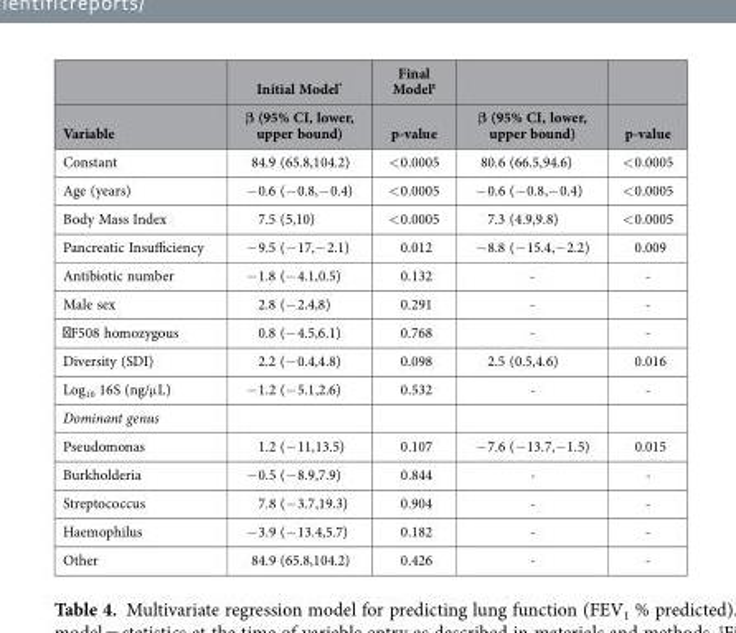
<table><thead><tr><td rowspan="2">Variable</td><td rowspan="2">Initial Model* β (95% CI, lower, upper bound)</td><td rowspan="2">Final Model<sup>t</sup> p-value</td><td rowspan="2">β (95% CI, lower, upper bound)</td><td rowspan="2">p-value</td></tr><tr></tr></thead><tbody><tr><td>Constant</td><td>84.9 (65.8,104.2)</td><td>&lt; 0.0005</td><td>80.6 (66.5,94.6)</td><td>&lt; 0.0005</td></tr><tr><td>Age (years)</td><td>− 0.6 (− 0.8,− 0.4)</td><td>&lt; 0.0005</td><td>− 0.6 (− 0.8,− 0.4)</td><td>&lt; 0.0005</td></tr><tr><td>Body Mass Index</td><td>7.5 (5,10)</td><td>&lt; 0.0005</td><td>7.3 (4.9,9.8)</td><td>&lt; 0.0005</td></tr><tr><td>Pancreatic Insufficiency</td><td>− 9.5 (− 17,− 2.1)</td><td>0.012</td><td>− 8.8 (− 15.4,− 2.2)</td><td>0.009</td></tr><tr><td>Antibiotic number</td><td>− 1.8 (− 4.1,0.5)</td><td>0.132</td><td>-</td><td>-</td></tr><tr><td>Male sex</td><td>2.8 (− 2.4,8)</td><td>0.291</td><td>-</td><td>-</td></tr><tr><td>F508 homozygous</td><td>0.8 (− 4.5,6.1)</td><td>0.768</td><td>-</td><td>-</td></tr><tr><td>Diversity (SDI)</td><td>2.2 (− 0.4,4.8)</td><td>0.098</td><td>2.5 (0.5,4.6)</td><td>0.016</td></tr><tr><td>Log<sub>10</sub> 16S (ng/μ L)</td><td>− 1.2 (− 5.1,2.6)</td><td>0.532</td><td>-</td><td>-</td></tr><tr><td colspan="5">Dominant genus</td></tr><tr><td>Pseudomonas</td><td>1.2 (− 11,13.5)</td><td>0.107</td><td>− 7.6 (− 13.7,− 1.5)</td><td>0.015</td></tr><tr><td>Burkholderia</td><td>− 0.5 (− 8.9,7.9)</td><td>0.844</td><td>-</td><td>-</td></tr><tr><td>Streptococcus</td><td>7.8 (− 3.7,19.3)</td><td>0.904</td><td>-</td><td>-</td></tr><tr><td>Haemophilus</td><td>− 3.9 (− 13.4,5.7)</td><td>0.182</td><td>-</td><td>-</td></tr><tr><td>Other</td><td>84.9 (65.8,104.2)</td><td>0.426</td><td>-</td><td>-</td></tr></tbody></table>